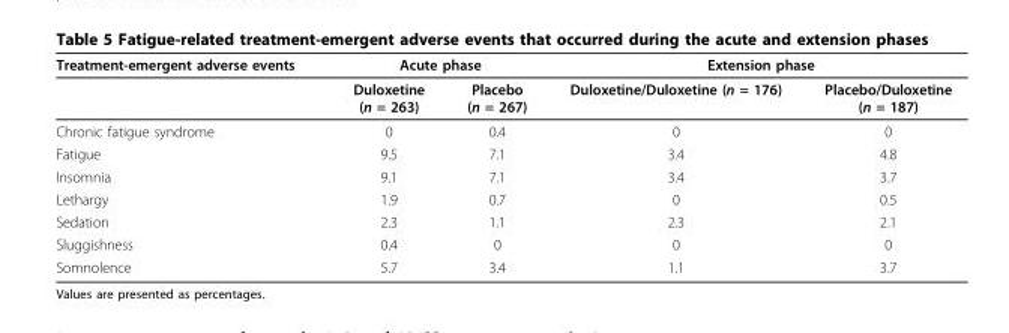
<table><thead><tr><td rowspan="2">Treatment-emergent adverse events</td><td colspan="2">Acute phase</td><td colspan="2">Extension phase</td></tr><tr><td>Duloxetine (n = 263)</td><td>Placebo (n = 267)</td><td>Duloxetine/Duloxetine (n = 176)</td><td>Placebo/Duloxetine (n = 187)</td></tr></thead><tbody><tr><td>Chronic fatigue syndrome</td><td>0</td><td>0.4</td><td>0</td><td>0</td></tr><tr><td>Fatigue</td><td>9.5</td><td>7.1</td><td>3.4</td><td>4.8</td></tr><tr><td>Insomnia</td><td>9.1</td><td>7.1</td><td>3.4</td><td>3.7</td></tr><tr><td>Lethargy</td><td>1.9</td><td>0.7</td><td>0</td><td>0.5</td></tr><tr><td>Sedation</td><td>2.3</td><td>1.1</td><td>2.3</td><td>2.1</td></tr><tr><td>Sluggishness</td><td>0.4</td><td>0</td><td>0</td><td>0</td></tr><tr><td>Somnolence</td><td>5.7</td><td>3.4</td><td>1.1</td><td>3.7</td></tr></tbody></table>